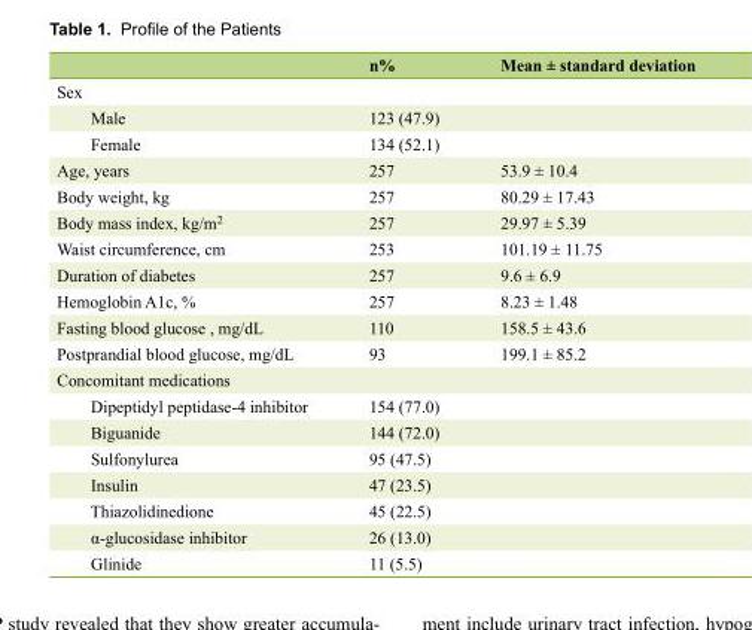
<table><thead><tr><td></td><td>n%</td><td>Mean ± standard deviation</td></tr></thead><tbody><tr><td colspan="3">Sex</td></tr><tr><td>Male</td><td>123 (47.9)</td><td></td></tr><tr><td>Female</td><td>134 (52.1)</td><td></td></tr><tr><td>Age, years</td><td>257</td><td>53.9 ± 10.4</td></tr><tr><td>Body weight, kg</td><td>257</td><td>80.29 ± 17.43</td></tr><tr><td>Body mass index, kg/m<sup>2</sup></td><td>257</td><td>29.97 ± 5.39</td></tr><tr><td>Waist circumference, cm</td><td>253</td><td>101.19 ± 11.75</td></tr><tr><td>Duration of diabetes</td><td>257</td><td>9.6 ± 6.9</td></tr><tr><td>Hemoglobin A1c, %</td><td>257</td><td>8.23 ± 1.48</td></tr><tr><td>Fasting blood glucose , mg/dL</td><td>110</td><td>158.5 ± 43.6</td></tr><tr><td>Postprandial blood glucose, mg/dL</td><td>93</td><td>199.1 ± 85.2</td></tr><tr><td colspan="3">Concomitant medications</td></tr><tr><td>Dipeptidyl peptidase-4 inhibitor</td><td>154 (77.0)</td><td></td></tr><tr><td>Biguanide</td><td>144 (72.0)</td><td></td></tr><tr><td>Sulfonylurea</td><td>95 (47.5)</td><td></td></tr><tr><td>Insulin</td><td>47 (23.5)</td><td></td></tr><tr><td>Thiazolidinedione</td><td>45 (22.5)</td><td></td></tr><tr><td>α-glucosidase inhibitor</td><td>26 (13.0)</td><td></td></tr><tr><td>Glinide</td><td>11 (5.5)</td><td></td></tr></tbody></table>